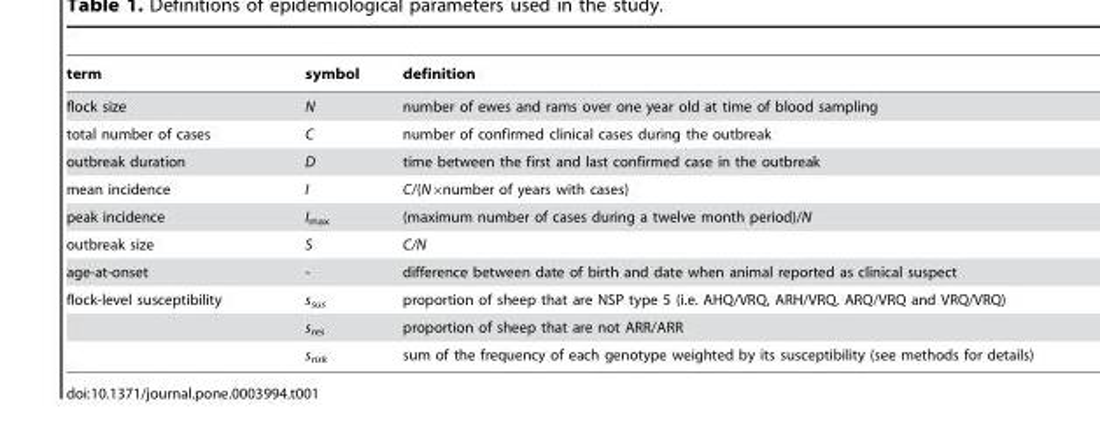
<table><thead><tr><td>term</td><td>symbol</td><td>definition</td></tr></thead><tbody><tr><td>flock size</td><td>N</td><td>number of ewes and rams over one year old at time of blood sampling</td></tr><tr><td>total number of cases</td><td>C</td><td>number of confirmed clinical cases during the outbreak</td></tr><tr><td>outbreak duration</td><td>D</td><td>time between the first and last confirmed case in the outbreak</td></tr><tr><td>mean incidence</td><td>I</td><td>C/(N×number of years with cases)</td></tr><tr><td>peak incidence</td><td>I<sub>max</sub></td><td>(maximum number of cases during a twelve month period)/N</td></tr><tr><td>outbreak size</td><td>S</td><td>C/N</td></tr><tr><td>age-at-onset</td><td>-</td><td>difference between date of birth and date when animal reported as clinical suspect</td></tr><tr><td rowspan="3">flock-level susceptibility</td><td>s<sub>sus</sub></td><td>proportion of sheep that are NSP type 5 (i.e. AHQ/VRQ, ARH/VRQ, ARQ/VRQ and VRQ/VRQ)</td></tr><tr><td>s<sub>res</sub></td><td>proportion of sheep that are not ARR/ARR</td></tr><tr><td>s<sub>risk</sub></td><td>sum of the frequency of each genotype weighted by its susceptibility (see methods for details)</td></tr></tbody></table>